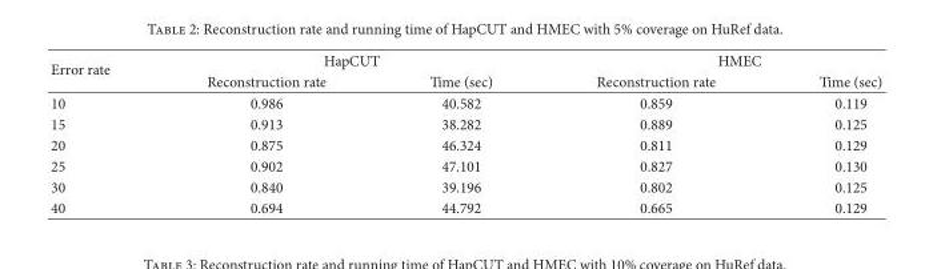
<table><thead><tr><td rowspan="2">Error rate</td><td colspan="2">HapCUT</td><td colspan="2">HMEC</td></tr><tr><td>Reconstruction rate</td><td>Time (sec)</td><td>Reconstruction rate</td><td>Time (sec)</td></tr></thead><tbody><tr><td>10</td><td>0.986</td><td>40.582</td><td>0.859</td><td>0.119</td></tr><tr><td>15</td><td>0.913</td><td>38.282</td><td>0.889</td><td>0.125</td></tr><tr><td>20</td><td>0.875</td><td>46.324</td><td>0.811</td><td>0.129</td></tr><tr><td>25</td><td>0.902</td><td>47.101</td><td>0.827</td><td>0.130</td></tr><tr><td>30</td><td>0.840</td><td>39.196</td><td>0.802</td><td>0.125</td></tr><tr><td>40</td><td>0.694</td><td>44.792</td><td>0.665</td><td>0.129</td></tr></tbody></table>